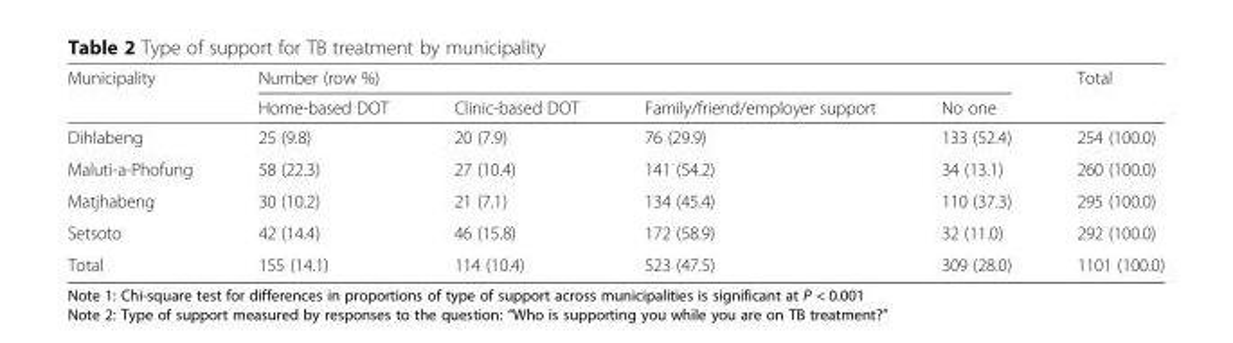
<table><thead><tr><td rowspan="2">Municipality</td><td colspan="4">Number (row %)</td><td rowspan="2">Total</td></tr><tr><td>Home-based DOT</td><td>Clinic-based DOT</td><td>Family/friend/employer support</td><td>No one</td></tr></thead><tbody><tr><td>Dihlabeng</td><td>25 (9.8)</td><td>20 (7.9)</td><td>76 (29.9)</td><td>133 (52.4)</td><td>254 (100.0)</td></tr><tr><td>Maluti-a-Phofung</td><td>58 (22.3)</td><td>27 (10.4)</td><td>141 (54.2)</td><td>34 (13.1)</td><td>260 (100.0)</td></tr><tr><td>Matjhabeng</td><td>30 (10.2)</td><td>21 (7.1)</td><td>134 (45.4)</td><td>110 (37.3)</td><td>295 (100.0)</td></tr><tr><td>Setsoto</td><td>42 (14.4)</td><td>46 (15.8)</td><td>172 (58.9)</td><td>32 (11.0)</td><td>292 (100.0)</td></tr><tr><td>Total</td><td>155 (14.1)</td><td>114 (10.4)</td><td>523 (47.5)</td><td>309 (28.0)</td><td>1101 (100.0)</td></tr></tbody></table>